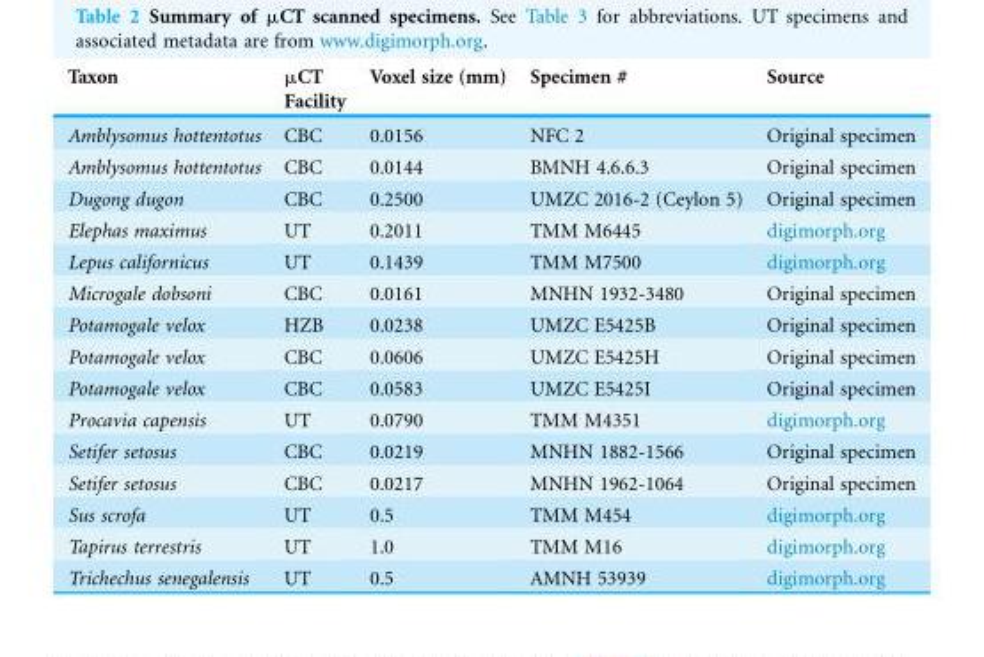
<table><thead><tr><td>Taxon</td><td>μCT Facility</td><td>Voxel size (mm)</td><td>Specimen #</td><td>Source</td></tr></thead><tbody><tr><td>Amblysomus hottentotus</td><td>CBC</td><td>0.0156</td><td>NFC 2</td><td>Original specimen</td></tr><tr><td>Amblysomus hottentotus</td><td>CBC</td><td>0.0144</td><td>BMNH 4.6.6.3</td><td>Original specimen</td></tr><tr><td>Dugong dugon</td><td>CBC</td><td>0.2500</td><td>UMZC 2016-2 (Ceylon 5)</td><td>Original specimen</td></tr><tr><td>Elephas maximus</td><td>UT</td><td>0.2011</td><td>TMM M6445</td><td>digimorph.org</td></tr><tr><td>Lepus californicus</td><td>UT</td><td>0.1439</td><td>TMM M7500</td><td>digimorph.org</td></tr><tr><td>Microgale dobsoni</td><td>CBC</td><td>0.0161</td><td>MNHN 1932-3480</td><td>Original specimen</td></tr><tr><td>Potamogale velox</td><td>HZB</td><td>0.0238</td><td>UMZC E5425B</td><td>Original specimen</td></tr><tr><td>Potamogale velox</td><td>CBC</td><td>0.0606</td><td>UMZC E5425H</td><td>Original specimen</td></tr><tr><td>Potamogale velox</td><td>CBC</td><td>0.0583</td><td>UMZC E5425I</td><td>Original specimen</td></tr><tr><td>Procavia capensis</td><td>UT</td><td>0.0790</td><td>TMM M4351</td><td>digimorph.org</td></tr><tr><td>Setifer setosus</td><td>CBC</td><td>0.0219</td><td>MNHN 1882-1566</td><td>Original specimen</td></tr><tr><td>Setifer setosus</td><td>CBC</td><td>0.0217</td><td>MNHN 1962-1064</td><td>Original specimen</td></tr><tr><td>Sus scrofa</td><td>UT</td><td>0.5</td><td>TMM M454</td><td>digimorph.org</td></tr><tr><td>Tapirus terrestris</td><td>UT</td><td>1.0</td><td>TMM M16</td><td>digimorph.org</td></tr><tr><td>Trichechus senegalensis</td><td>UT</td><td>0.5</td><td>AMNH 53939</td><td>digimorph.org</td></tr></tbody></table>